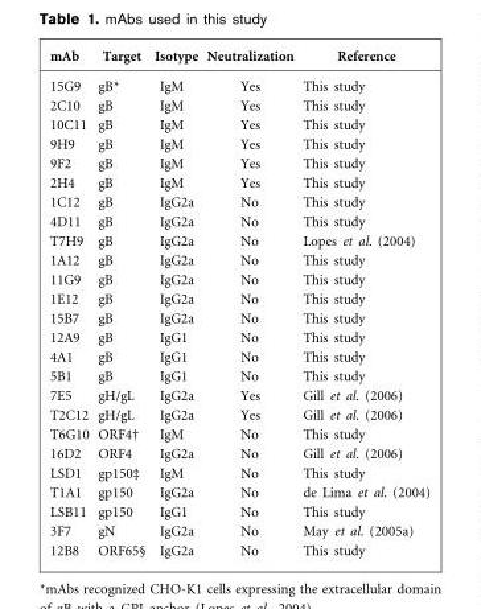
<table><thead><tr><td>mAb</td><td>Target</td><td>Isotype</td><td>Neutralization</td><td>Reference</td></tr></thead><tbody><tr><td>15G9</td><td>gB*</td><td>IgM</td><td>Yes</td><td>This study</td></tr><tr><td>2C10</td><td>gB</td><td>IgM</td><td>Yes</td><td>This study</td></tr><tr><td>10C11</td><td>gB</td><td>IgM</td><td>Yes</td><td>This study</td></tr><tr><td>9H9</td><td>gB</td><td>IgM</td><td>Yes</td><td>This study</td></tr><tr><td>9F2</td><td>gB</td><td>IgM</td><td>Yes</td><td>This study</td></tr><tr><td>2H4</td><td>gB</td><td>IgM</td><td>Yes</td><td>This study</td></tr><tr><td>1C12</td><td>gB</td><td>IgG2a</td><td>No</td><td>This study</td></tr><tr><td>4D11</td><td>gB</td><td>IgG2a</td><td>No</td><td>This study</td></tr><tr><td>T7H9</td><td>gB</td><td>IgG2a</td><td>No</td><td>Lopes et al. (2004)</td></tr><tr><td>1A12</td><td>gB</td><td>IgG2a</td><td>No</td><td>This study</td></tr><tr><td>11G9</td><td>gB</td><td>IgG2a</td><td>No</td><td>This study</td></tr><tr><td>1E12</td><td>gB</td><td>IgG2a</td><td>No</td><td>This study</td></tr><tr><td>15B7</td><td>gB</td><td>IgG2a</td><td>No</td><td>This study</td></tr><tr><td>12A9</td><td>gB</td><td>IgG1</td><td>No</td><td>This study</td></tr><tr><td>4A1</td><td>gB</td><td>IgG1</td><td>No</td><td>This study</td></tr><tr><td>5B1</td><td>gB</td><td>IgG1</td><td>No</td><td>This study</td></tr><tr><td>7E5</td><td>gH/gL</td><td>IgG2a</td><td>Yes</td><td>Gill et al. (2006)</td></tr><tr><td>T2C12</td><td>gH/gL</td><td>IgG2a</td><td>Yes</td><td>Gill et al. (2006)</td></tr><tr><td>T6G10</td><td>ORF4†</td><td>IgM</td><td>No</td><td>This study</td></tr><tr><td>16D2</td><td>ORF4</td><td>IgG2a</td><td>No</td><td>Gill et al. (2006)</td></tr><tr><td>LSD1</td><td>gp150‡</td><td>IgM</td><td>No</td><td>This study</td></tr><tr><td>T1A1</td><td>gp150</td><td>IgG2a</td><td>No</td><td>de Lima et al. (2004)</td></tr><tr><td>LSB11</td><td>gp150</td><td>IgG1</td><td>No</td><td>This study</td></tr><tr><td>3F7</td><td>gN</td><td>IgG2a</td><td>No</td><td>May et al. (2005a)</td></tr><tr><td>12B8</td><td>ORF65§</td><td>IgG2a</td><td>No</td><td>This study</td></tr></tbody></table>